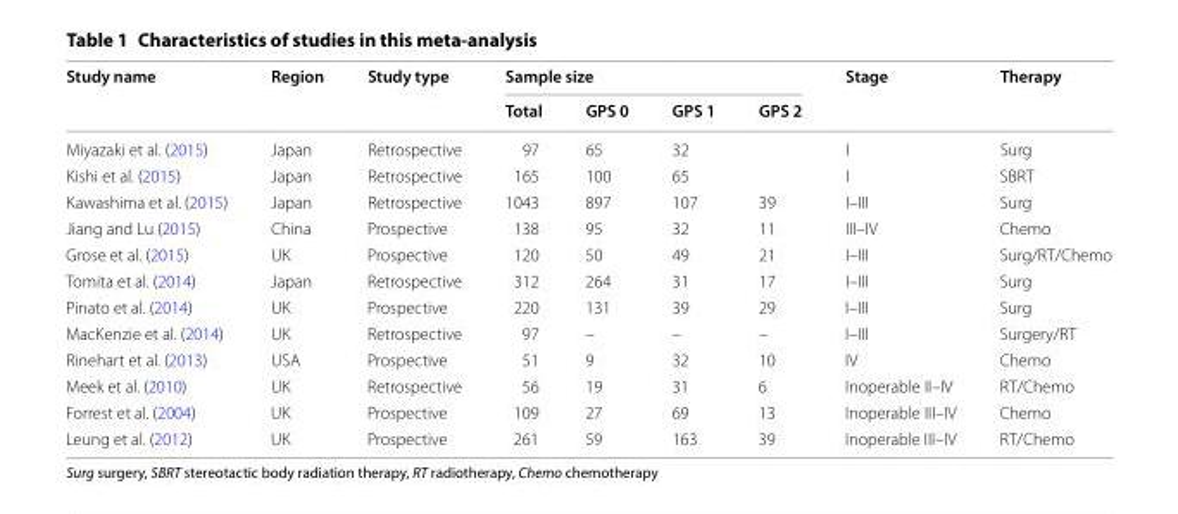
<table><thead><tr><td rowspan="2">Study name</td><td rowspan="2">Region</td><td rowspan="2">Study type</td><td colspan="4">Sample size</td><td rowspan="2">Stage</td><td rowspan="2">Therapy</td></tr><tr><td>Total</td><td>GPS 0</td><td>GPS 1</td><td>GPS 2</td></tr></thead><tbody><tr><td>Miyazaki et al. (2015)</td><td>Japan</td><td>Retrospective</td><td>97</td><td>65</td><td colspan="2">32</td><td>I</td><td>Surg</td></tr><tr><td>Kishi et al. (2015)</td><td>Japan</td><td>Retrospective</td><td>165</td><td>100</td><td colspan="2">65</td><td>I</td><td>SBRT</td></tr><tr><td>Kawashima et al. (2015)</td><td>Japan</td><td>Retrospective</td><td>1043</td><td>897</td><td>107</td><td>39</td><td>I–III</td><td>Surg</td></tr><tr><td>Jiang and Lu (2015)</td><td>China</td><td>Prospective</td><td>138</td><td>95</td><td>32</td><td>11</td><td>III–IV</td><td>Chemo</td></tr><tr><td>Grose et al. (2015)</td><td>UK</td><td>Prospective</td><td>120</td><td>50</td><td>49</td><td>21</td><td>I–III</td><td>Surg/RT/Chemo</td></tr><tr><td>Tomita et al. (2014)</td><td>Japan</td><td>Retrospective</td><td>312</td><td>264</td><td>31</td><td>17</td><td>I–III</td><td>Surg</td></tr><tr><td>Pinato et al. (2014)</td><td>UK</td><td>Prospective</td><td>220</td><td>131</td><td>39</td><td>29</td><td>I–III</td><td>Surg</td></tr><tr><td>MacKenzie et al. (2014)</td><td>UK</td><td>Retrospective</td><td>97</td><td>–</td><td>–</td><td>–</td><td>I–III</td><td>Surgery/RT</td></tr><tr><td>Rinehart et al. (2013)</td><td>USA</td><td>Prospective</td><td>51</td><td>9</td><td>32</td><td>10</td><td>IV</td><td>Chemo</td></tr><tr><td>Meek et al. (2010)</td><td>UK</td><td>Retrospective</td><td>56</td><td>19</td><td>31</td><td>6</td><td>Inoperable II–IV</td><td>RT/Chemo</td></tr><tr><td>Forrest et al. (2004)</td><td>UK</td><td>Prospective</td><td>109</td><td>27</td><td>69</td><td>13</td><td>Inoperable III–IV</td><td>Chemo</td></tr><tr><td>Leung et al. (2012)</td><td>UK</td><td>Prospective</td><td>261</td><td>59</td><td>163</td><td>39</td><td>Inoperable III–IV</td><td>RT/Chemo</td></tr></tbody></table>